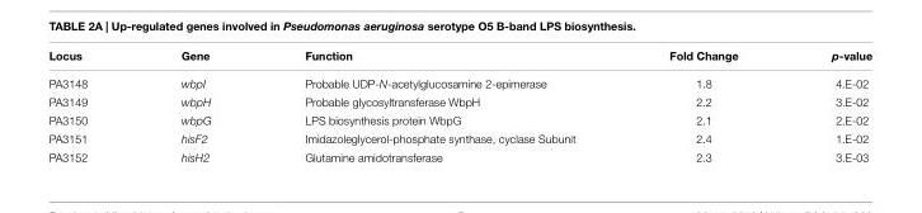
<table><thead><tr><td>Locus</td><td>Gene</td><td>Function</td><td>Fold Change</td><td>p-value</td></tr></thead><tbody><tr><td>PA3148</td><td>wbpI</td><td>Probable UDP-N-acetylglucosamine 2-epimerase</td><td>1.8</td><td>4.E-02</td></tr><tr><td>PA3149</td><td>wbpH</td><td>Probable glycosyltransferase WbpH</td><td>2.2</td><td>3.E-02</td></tr><tr><td>PA3150</td><td>wbpG</td><td>LPS biosynthesis protein WbpG</td><td>2.1</td><td>2.E-02</td></tr><tr><td>PA3151</td><td>hisF2</td><td>Imidazoleglycerol-phosphate synthase, cyclase Subunit</td><td>2.4</td><td>1.E-02</td></tr><tr><td>PA3152</td><td>hisH2</td><td>Glutamine amidotransferase</td><td>2.3</td><td>3.E-03</td></tr></tbody></table>